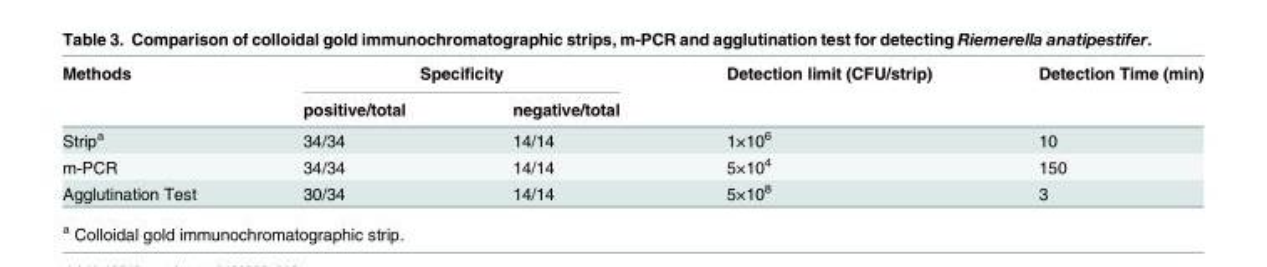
<table><thead><tr><td rowspan="2">Methods</td><td colspan="2">Specificity</td><td rowspan="2">Detection limit (CFU/strip)</td><td rowspan="2">Detection Time (min)</td></tr><tr><td>positive/total</td><td>negative/total</td></tr></thead><tbody><tr><td>Strip<sup>a</sup></td><td>34/34</td><td>14/14</td><td>1×10<sup>6</sup></td><td>10</td></tr><tr><td>m-PCR</td><td>34/34</td><td>14/14</td><td>5×10<sup>4</sup></td><td>150</td></tr><tr><td>Agglutination Test</td><td>30/34</td><td>14/14</td><td>5×10<sup>8</sup></td><td>3</td></tr></tbody></table>